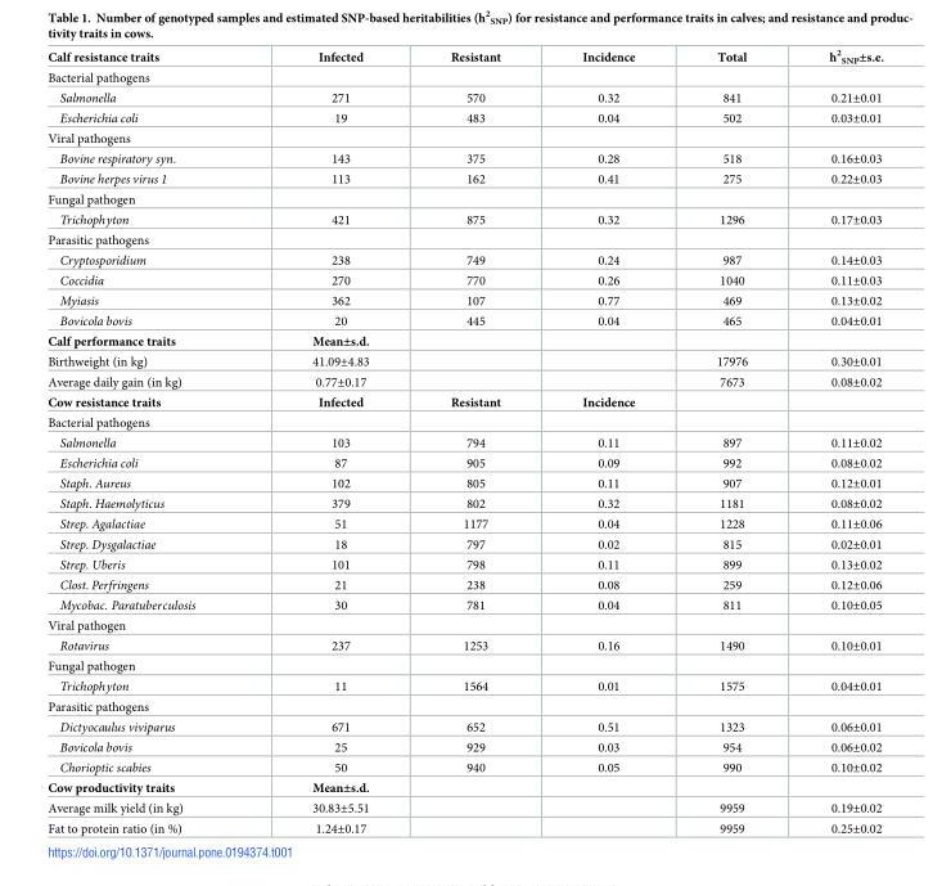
<table><tbody><tr><td>Calf resistance traits</td><td>Infected</td><td>Resistant</td><td>Incidence</td><td>Total</td><td>h<sup>2</sup> <sub>SNP</sub>±s.e.</td></tr><tr><td colspan="6">Bacterial pathogens</td></tr><tr><td>Salmonella</td><td>271</td><td>570</td><td>0.32</td><td>841</td><td>0.21±0.01</td></tr><tr><td>Escherichia coli</td><td>19</td><td>483</td><td>0.04</td><td>502</td><td>0.03±0.01</td></tr><tr><td colspan="6">Viral pathogens</td></tr><tr><td>Bovine respiratory syn.</td><td>143</td><td>375</td><td>0.28</td><td>518</td><td>0.16±0.03</td></tr><tr><td>Bovine herpes virus 1</td><td>113</td><td>162</td><td>0.41</td><td>275</td><td>0.22±0.03</td></tr><tr><td colspan="6">Fungal pathogen</td></tr><tr><td>Trichophyton</td><td>421</td><td>875</td><td>0.32</td><td>1296</td><td>0.17±0.03</td></tr><tr><td colspan="6">Parasitic pathogens</td></tr><tr><td>Cryptosporidium</td><td>238</td><td>749</td><td>0.24</td><td>987</td><td>0.14±0.03</td></tr><tr><td>Coccidia</td><td>270</td><td>770</td><td>0.26</td><td>1040</td><td>0.11±0.03</td></tr><tr><td>Myiasis</td><td>362</td><td>107</td><td>0.77</td><td>469</td><td>0.13±0.02</td></tr><tr><td>Bovicola bovis</td><td>20</td><td>445</td><td>0.04</td><td>465</td><td>0.04±0.01</td></tr><tr><td>Calf performance traits</td><td>Mean±s.d.</td><td></td><td></td><td></td><td></td></tr><tr><td>Birthweight (in kg)</td><td>41.09±4.83</td><td></td><td></td><td>17976</td><td>0.30±0.01</td></tr><tr><td>Average daily gain (in kg)</td><td>0.77±0.17</td><td></td><td></td><td>7673</td><td>0.08±0.02</td></tr><tr><td>Cow resistance traits</td><td>Infected</td><td>Resistant</td><td>Incidence</td><td></td><td></td></tr><tr><td colspan="6">Bacterial pathogens</td></tr><tr><td>Salmonella</td><td>103</td><td>794</td><td>0.11</td><td>897</td><td>0.11±0.02</td></tr><tr><td>Escherichia coli</td><td>87</td><td>905</td><td>0.09</td><td>992</td><td>0.08±0.02</td></tr><tr><td>Staph. Aureus</td><td>102</td><td>805</td><td>0.11</td><td>907</td><td>0.12±0.01</td></tr><tr><td>Staph. Haemolyticus</td><td>379</td><td>802</td><td>0.32</td><td>1181</td><td>0.08±0.02</td></tr><tr><td>Strep. Agalactiae</td><td>51</td><td>1177</td><td>0.04</td><td>1228</td><td>0.11±0.06</td></tr><tr><td>Strep. Dysgalactiae</td><td>18</td><td>797</td><td>0.02</td><td>815</td><td>0.02±0.01</td></tr><tr><td>Strep. Uberis</td><td>101</td><td>798</td><td>0.11</td><td>899</td><td>0.13±0.02</td></tr><tr><td>Clost. Perfringens</td><td>21</td><td>238</td><td>0.08</td><td>259</td><td>0.12±0.06</td></tr><tr><td>Mycobac. Paratuberculosis</td><td>30</td><td>781</td><td>0.04</td><td>811</td><td>0.10±0.05</td></tr><tr><td colspan="6">Viral pathogen</td></tr><tr><td>Rotavirus</td><td>237</td><td>1253</td><td>0.16</td><td>1490</td><td>0.10±0.01</td></tr><tr><td colspan="6">Fungal pathogen</td></tr><tr><td>Trichophyton</td><td>11</td><td>1564</td><td>0.01</td><td>1575</td><td>0.04±0.01</td></tr><tr><td colspan="6">Parasitic pathogens</td></tr><tr><td>Dictyocaulus viviparus</td><td>671</td><td>652</td><td>0.51</td><td>1323</td><td>0.06±0.01</td></tr><tr><td>Bovicola bovis</td><td>25</td><td>929</td><td>0.03</td><td>954</td><td>0.06±0.02</td></tr><tr><td>Chorioptic scabies</td><td>50</td><td>940</td><td>0.05</td><td>990</td><td>0.10±0.02</td></tr><tr><td>Cow productivity traits</td><td>Mean±s.d.</td><td></td><td></td><td></td><td></td></tr><tr><td>Average milk yield (in kg)</td><td>30.83±5.51</td><td></td><td></td><td>9959</td><td>0.19±0.02</td></tr><tr><td>Fat to protein ratio (in %)</td><td>1.24±0.17</td><td></td><td></td><td>9959</td><td>0.25±0.02</td></tr></tbody></table>